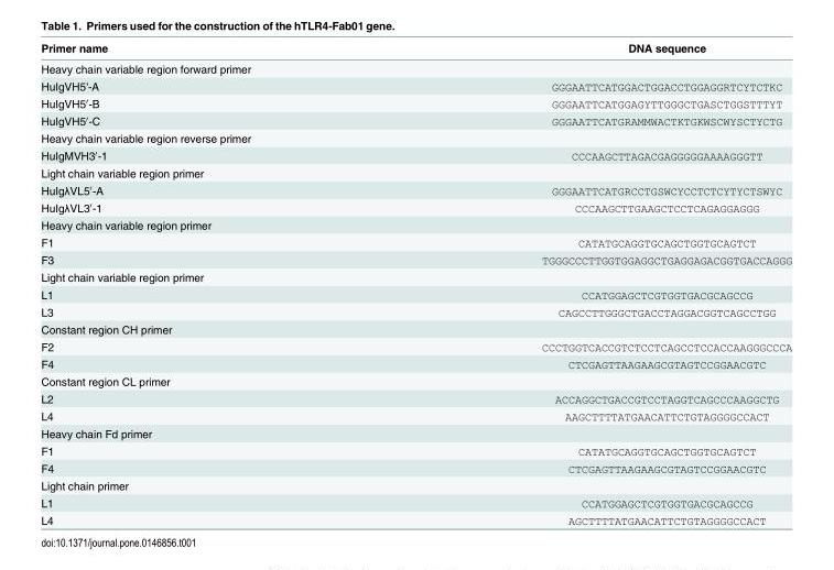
<table><thead><tr><td>Primer name</td><td>DNA sequence</td></tr></thead><tbody><tr><td colspan="2">Heavy chain variable region forward primer</td></tr><tr><td>HuIgVH5&#x27;-A</td><td>GGGAATTCATGGACTGGACCTGGAGGRTCYTCTKC</td></tr><tr><td>HuIgVH5′-B</td><td>GGGAATTCATGGAGYTTGGGCTGASCTGGSTTTYT</td></tr><tr><td>HuIgVH5′-C</td><td>GGGAATTCATGRAMMWACTKTGKWSCWYSCTYCTG</td></tr><tr><td colspan="2">Heavy chain variable region reverse primer</td></tr><tr><td>HuIgMVH3′-1</td><td>CCCAAGCTTAGACGAGGGGGAAAAGGGTT</td></tr><tr><td colspan="2">Light chain variable region primer</td></tr><tr><td>HuIgλVL5′-A</td><td>GGGAATTCATGRCCTGSWCYCCTCTCYTYCTSWYC</td></tr><tr><td>HuIgλVL3′-1</td><td>CCCAAGCTTGAAGCTCCTCAGAGGAGGG</td></tr><tr><td colspan="2">Heavy chain variable region primer</td></tr><tr><td>F1</td><td>CATATGCAGGTGCAGCTGGTGCAGTCT</td></tr><tr><td>F3</td><td>TGGGCCCTTGGTGGAGGCTGAGGAGACGGTGACCAGGG</td></tr><tr><td colspan="2">Light chain variable region primer</td></tr><tr><td>L1</td><td>CCATGGAGCTCGTGGTGACGCAGCCG</td></tr><tr><td>L3</td><td>CAGCCTTGGGCTGACCTAGGACGGTCAGCCTGG</td></tr><tr><td colspan="2">Constant region CH primer</td></tr><tr><td>F2</td><td>CCCTGGTCACCGTCTCCTCAGCCTCCACCAAGGGCCCA</td></tr><tr><td>F4</td><td>CTCGAGTTAAGAAGCGTAGTCCGGAACGTC</td></tr><tr><td colspan="2">Constant region CL primer</td></tr><tr><td>L2</td><td>ACCAGGCTGACCGTCCTAGGTCAGCCCAAGGCTG</td></tr><tr><td>L4</td><td>AAGCTTTTATGAACATTCTGTAGGGGCCACT</td></tr><tr><td colspan="2">Heavy chain Fd primer</td></tr><tr><td>F1</td><td>CATATGCAGGTGCAGCTGGTGCAGTCT</td></tr><tr><td>F4</td><td>CTCGAGTTAAGAAGCGTAGTCCGGAACGTC</td></tr><tr><td colspan="2">Light chain primer</td></tr><tr><td>L1</td><td>CCATGGAGCTCGTGGTGACGCAGCCG</td></tr><tr><td>L4</td><td>AGCTTTTATGAACATTCTGTAGGGGCCACT</td></tr></tbody></table>